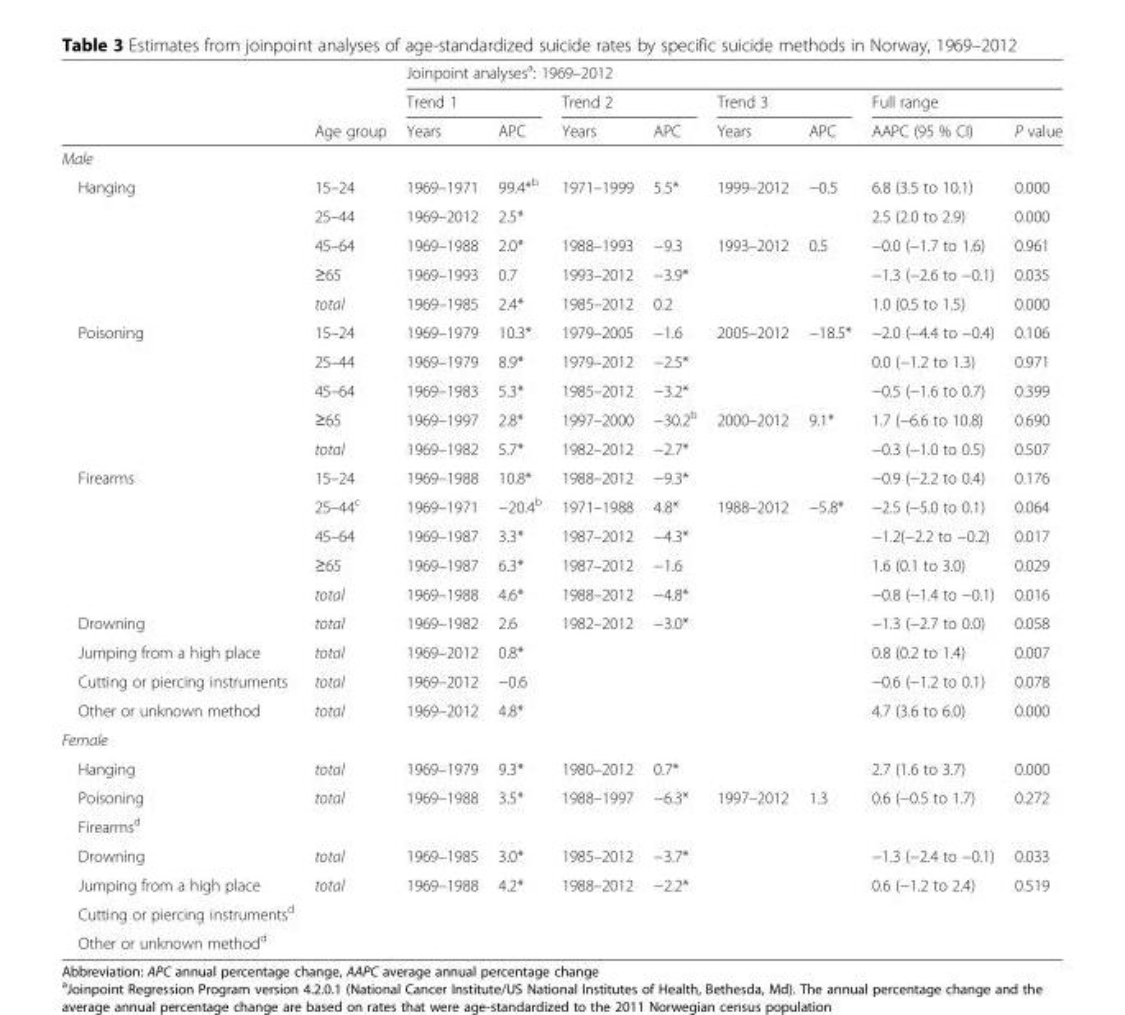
<table><thead><tr><td rowspan="3"></td><td rowspan="3">Age group</td><td colspan="8">Joinpoint analyses<sup>a</sup>: 1969–2012</td></tr><tr><td colspan="2">Trend 1</td><td colspan="2">Trend 2</td><td colspan="2">Trend 3</td><td colspan="2">Full range</td></tr><tr><td>Years</td><td>APC</td><td>Years</td><td>APC</td><td>Years</td><td>APC</td><td>AAPC (95 % CI)</td><td>P value</td></tr></thead><tbody><tr><td colspan="10">Male</td></tr><tr><td rowspan="5">Hanging</td><td>15–24</td><td>1969–1971</td><td>99.4*<sup>b</sup></td><td>1971–1999</td><td>5.5*</td><td>1999–2012</td><td>−0.5</td><td>6.8 (3.5 to 10.1)</td><td>0.000</td></tr><tr><td>25–44</td><td>1969–2012</td><td>2.5*</td><td></td><td></td><td></td><td></td><td>2.5 (2.0 to 2.9)</td><td>0.000</td></tr><tr><td>45–64</td><td>1969–1988</td><td>2.0*</td><td>1988–1993</td><td>−9.3</td><td>1993–2012</td><td>0.5</td><td>−0.0 (−1.7 to 1.6)</td><td>0.961</td></tr><tr><td>≥65</td><td>1969–1993</td><td>0.7</td><td>1993–2012</td><td>−3.9*</td><td></td><td></td><td>−1.3 (−2.6 to −0.1)</td><td>0.035</td></tr><tr><td>total</td><td>1969–1985</td><td>2.4*</td><td>1985–2012</td><td>0.2</td><td></td><td></td><td>1.0 (0.5 to 1.5)</td><td>0.000</td></tr><tr><td rowspan="5">Poisoning</td><td>15–24</td><td>1969–1979</td><td>10.3*</td><td>1979–2005</td><td>−1.6</td><td>2005–2012</td><td>−18.5*</td><td>−2.0 (−4.4 to −0.4)</td><td>0.106</td></tr><tr><td>25–44</td><td>1969–1979</td><td>8.9*</td><td>1979–2012</td><td>−2.5*</td><td></td><td></td><td>0.0 (−1.2 to 1.3)</td><td>0.971</td></tr><tr><td>45–64</td><td>1969–1983</td><td>5.3*</td><td>1985–2012</td><td>−3.2*</td><td></td><td></td><td>−0.5 (−1.6 to 0.7)</td><td>0.399</td></tr><tr><td>≥65</td><td>1969–1997</td><td>2.8*</td><td>1997–2000</td><td>−30.2<sup>b</sup></td><td>2000–2012</td><td>9.1*</td><td>1.7 (−6.6 to 10.8)</td><td>0.690</td></tr><tr><td>total</td><td>1969–1982</td><td>5.7*</td><td>1982–2012</td><td>−2.7*</td><td></td><td></td><td>−0.3 (−1.0 to 0.5)</td><td>0.507</td></tr><tr><td rowspan="5">Firearms</td><td>15–24</td><td>1969–1988</td><td>10.8*</td><td>1988–2012</td><td>−9.3*</td><td></td><td></td><td>−0.9 (−2.2 to 0.4)</td><td>0.176</td></tr><tr><td>25–44<sup>c</sup></td><td>1969–1971</td><td>−20.4<sup>b</sup></td><td>1971–1988</td><td>4.8*</td><td>1988–2012</td><td>−5.8*</td><td>−2.5 (−5.0 to 0.1)</td><td>0.064</td></tr><tr><td>45–64</td><td>1969–1987</td><td>3.3*</td><td>1987–2012</td><td>−4.3*</td><td></td><td></td><td>−1.2(−2.2 to −0.2)</td><td>0.017</td></tr><tr><td>≥65</td><td>1969–1987</td><td>6.3*</td><td>1987–2012</td><td>−1.6</td><td></td><td></td><td>1.6 (0.1 to 3.0)</td><td>0.029</td></tr><tr><td>total</td><td>1969–1988</td><td>4.6*</td><td>1988–2012</td><td>−4.8*</td><td></td><td></td><td>−0.8 (−1.4 to −0.1)</td><td>0.016</td></tr><tr><td>Drowning</td><td>total</td><td>1969–1982</td><td>2.6</td><td>1982–2012</td><td>−3.0*</td><td></td><td></td><td>−1.3 (−2.7 to 0.0)</td><td>0.058</td></tr><tr><td>Jumping from a high place</td><td>total</td><td>1969–2012</td><td>0.8*</td><td></td><td></td><td></td><td></td><td>0.8 (0.2 to 1.4)</td><td>0.007</td></tr><tr><td>Cutting or piercing instruments</td><td>total</td><td>1969–2012</td><td>−0.6</td><td></td><td></td><td></td><td></td><td>−0.6 (−1.2 to 0.1)</td><td>0.078</td></tr><tr><td>Other or unknown method</td><td>total</td><td>1969–2012</td><td>4.8*</td><td></td><td></td><td></td><td></td><td>4.7 (3.6 to 6.0)</td><td>0.000</td></tr><tr><td colspan="10">Female</td></tr><tr><td>Hanging</td><td>total</td><td>1969–1979</td><td>9.3*</td><td>1980–2012</td><td>0.7*</td><td></td><td></td><td>2.7 (1.6 to 3.7)</td><td>0.000</td></tr><tr><td>Poisoning</td><td>total</td><td>1969–1988</td><td>3.5*</td><td>1988–1997</td><td>−6.3*</td><td>1997–2012</td><td>1.3</td><td>0.6 (−0.5 to 1.7)</td><td>0.272</td></tr><tr><td colspan="10">Firearms<sup>d</sup></td></tr><tr><td>Drowning</td><td>total</td><td>1969–1985</td><td>3.0*</td><td>1985–2012</td><td>−3.7*</td><td></td><td></td><td>−1.3 (−2.4 to −0.1)</td><td>0.033</td></tr><tr><td>Jumping from a high place</td><td>total</td><td>1969–1988</td><td>4.2*</td><td>1988–2012</td><td>−2.2*</td><td></td><td></td><td>0.6 (−1.2 to 2.4)</td><td>0.519</td></tr><tr><td colspan="10">Cutting or piercing instruments<sup>d</sup></td></tr><tr><td>Other or unknown method<sup>d</sup></td><td></td><td></td><td></td><td></td><td></td><td></td><td></td><td></td><td></td></tr></tbody></table>